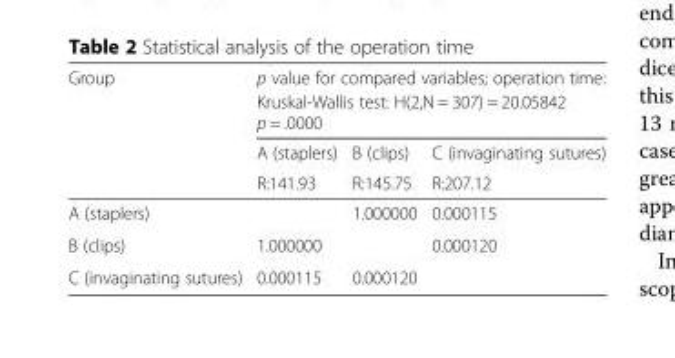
<table><thead><tr><td rowspan="4">Group</td><td rowspan="2" colspan="3">p value for compared variables; operation time: Kruskal-Wallis test: H(2,N = 307) = 20.05842 p = .0000</td></tr><tr></tr><tr><td rowspan="2">A (staplers) R:141.93</td><td rowspan="2">B (clips) R:145.75</td><td rowspan="2">C (invaginating sutures) R:207.12</td></tr><tr></tr></thead><tbody><tr><td>A (staplers)</td><td></td><td>1.000000</td><td>0.000115</td></tr><tr><td>B (clips)</td><td>1.000000</td><td></td><td>0.000120</td></tr><tr><td>C (invaginating sutures)</td><td>0.000115</td><td>0.000120</td><td></td></tr></tbody></table>